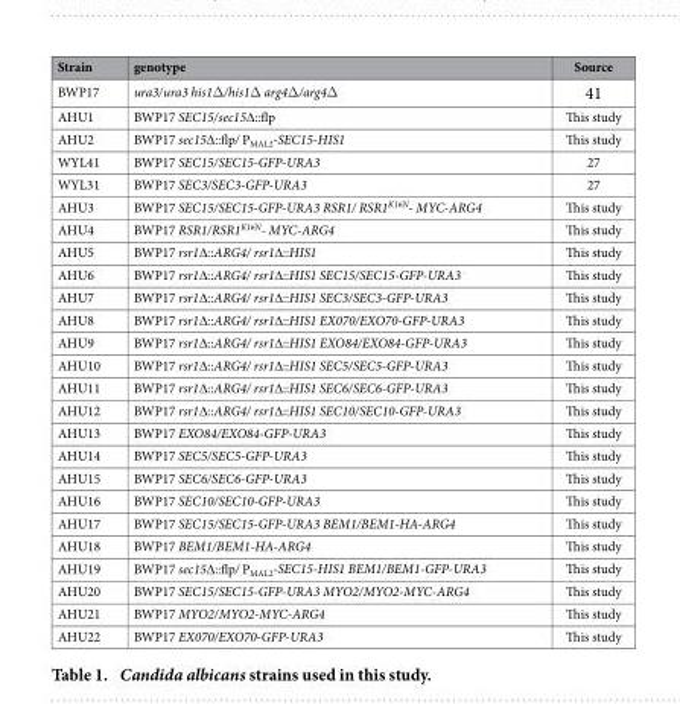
<table><thead><tr><td>Strain</td><td>genotype</td><td>Source</td></tr></thead><tbody><tr><td>BWP17</td><td>ura3/ura3 his1Δ /his1Δ arg4Δ /arg4Δ</td><td>41</td></tr><tr><td>AHU1</td><td>BWP17 SEC15/sec15∆::flp</td><td>This study</td></tr><tr><td>AHU2</td><td>BWP17 sec15∆::flp/ P<sub>MAL2</sub>-SEC15-HIS1</td><td>This study</td></tr><tr><td>WYL41</td><td>BWP17 SEC15/SEC15-GFP-URA3</td><td>27</td></tr><tr><td>WYL31</td><td>BWP17 SEC3/SEC3-GFP-URA3</td><td>27</td></tr><tr><td>AHU3</td><td>BWP17 SEC15/SEC15-GFP-URA3 RSR1/ RSR1<sup>K16N</sup>- MYC-ARG4</td><td>This study</td></tr><tr><td>AHU4</td><td>BWP17 RSR1/RSR1<sup>K16N</sup>- MYC-ARG4</td><td>This study</td></tr><tr><td>AHU5</td><td>BWP17 rsr1∆::ARG4/ rsr1∆::HIS1</td><td>This study</td></tr><tr><td>AHU6</td><td>BWP17 rsr1∆::ARG4/ rsr1∆::HIS1 SEC15/SEC15-GFP-URA3</td><td>This study</td></tr><tr><td>AHU7</td><td>BWP17 rsr1∆::ARG4/ rsr1∆::HIS1 SEC3/SEC3-GFP-URA3</td><td>This study</td></tr><tr><td>AHU8</td><td>BWP17 rsr1∆::ARG4/ rsr1∆::HIS1 EX070/EXO70-GFP-URA3</td><td>This study</td></tr><tr><td>AHU9</td><td>BWP17 rsr1∆::ARG4/ rsr1∆::HIS1 EXO84/EXO84-GFP-URA3</td><td>This study</td></tr><tr><td>AHU10</td><td>BWP17 rsr1∆::ARG4/ rsr1∆::HIS1 SEC5/SEC5-GFP-URA3</td><td>This study</td></tr><tr><td>AHU11</td><td>BWP17 rsr1∆::ARG4/ rsr1∆::HIS1 SEC6/SEC6-GFP-URA3</td><td>This study</td></tr><tr><td>AHU12</td><td>BWP17 rsr1∆::ARG4/ rsr1∆::HIS1 SEC10/SEC10-GFP-URA3</td><td>This study</td></tr><tr><td>AHU13</td><td>BWP17 EXO84/EXO84-GFP-URA3</td><td>This study</td></tr><tr><td>AHU14</td><td>BWP17 SEC5/SEC5-GFP-URA3</td><td>This study</td></tr><tr><td>AHU15</td><td>BWP17 SEC6/SEC6-GFP-URA3</td><td>This study</td></tr><tr><td>AHU16</td><td>BWP17 SEC10/SEC10-GFP-URA3</td><td>This study</td></tr><tr><td>AHU17</td><td>BWP17 SEC15/SEC15-GFP-URA3 BEM1/BEM1-HA-ARG4</td><td>This study</td></tr><tr><td>AHU18</td><td>BWP17 BEM1/BEM1-HA-ARG4</td><td>This study</td></tr><tr><td>AHU19</td><td>BWP17 sec15∆::flp/ P<sub>MAL2</sub>-SEC15-HIS1 BEM1/BEM1-GFP-URA3</td><td>This study</td></tr><tr><td>AHU20</td><td>BWP17 SEC15/SEC15-GFP-URA3 MYO2/MYO2-MYC-ARG4</td><td>This study</td></tr><tr><td>AHU21</td><td>BWP17 MYO2/MYO2-MYC-ARG4</td><td>This study</td></tr><tr><td>AHU22</td><td>BWP17 EX070/EXO70-GFP-URA3</td><td>This study</td></tr></tbody></table>